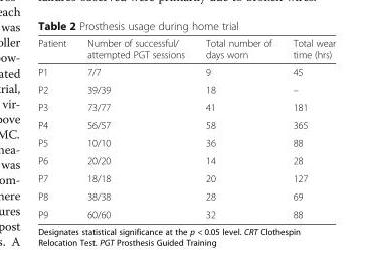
<table><thead><tr><td>Patient</td><td>Number of successful/ attempted PGT sessions</td><td>Total number of days worn</td><td>Total wear time (hrs)</td></tr></thead><tbody><tr><td>P1</td><td>7/7</td><td>9</td><td>45</td></tr><tr><td>P2</td><td>39/39</td><td>18</td><td>–</td></tr><tr><td>P3</td><td>73/77</td><td>41</td><td>181</td></tr><tr><td>P4</td><td>56/57</td><td>58</td><td>365</td></tr><tr><td>P5</td><td>10/10</td><td>36</td><td>88</td></tr><tr><td>P6</td><td>20/20</td><td>14</td><td>28</td></tr><tr><td>P7</td><td>18/18</td><td>20</td><td>127</td></tr><tr><td>P8</td><td>38/38</td><td>28</td><td>69</td></tr><tr><td>P9</td><td>60/60</td><td>32</td><td>88</td></tr></tbody></table>